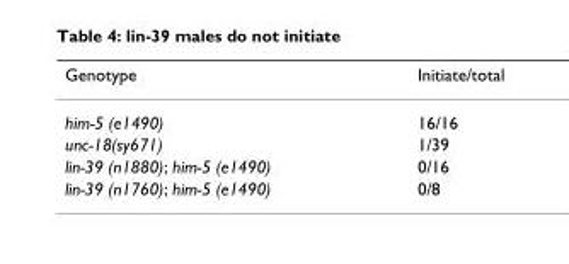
<table><thead><tr><td>Genotype</td><td>Initiate/total</td></tr></thead><tbody><tr><td>him-5 (e1490)</td><td>16/16</td></tr><tr><td>unc-18(sy671)</td><td>1/39</td></tr><tr><td>lin-39 (n1880); him-5 (e1490)</td><td>0/16</td></tr><tr><td>lin-39 (n1760); him-5 (e1490)</td><td>0/8</td></tr></tbody></table>